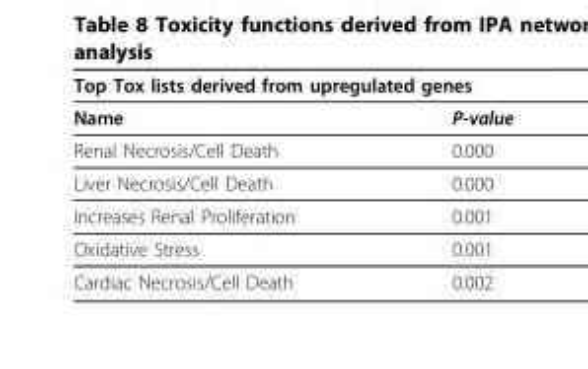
<table><thead><tr><td colspan="2">Top Tox lists derived from upregulated genes</td></tr><tr><td>Name</td><td>P-value</td></tr></thead><tbody><tr><td>Renal Necrosis/Cell Death</td><td>0.000</td></tr><tr><td>Liver Necrosis/Cell Death</td><td>0.000</td></tr><tr><td>Increases Renal Proliferation</td><td>0.001</td></tr><tr><td>Oxidative Stress</td><td>0.001</td></tr><tr><td>Cardiac Necrosis/Cell Death</td><td>0.002</td></tr></tbody></table>